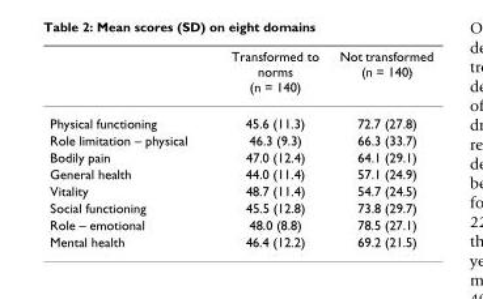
<table><thead><tr><td></td><td>Transformed to norms (n = 140)</td><td>Not transformed (n = 140)</td></tr></thead><tbody><tr><td>Physical functioning</td><td>45.6 (11.3)</td><td>72.7 (27.8)</td></tr><tr><td>Role limitation – physical</td><td>46.3 (9.3)</td><td>66.3 (33.7)</td></tr><tr><td>Bodily pain</td><td>47.0 (12.4)</td><td>64.1 (29.1)</td></tr><tr><td>General health</td><td>44.0 (11.4)</td><td>57.1 (24.9)</td></tr><tr><td>Vitality</td><td>48.7 (11.4)</td><td>54.7 (24.5)</td></tr><tr><td>Social functioning</td><td>45.5 (12.8)</td><td>73.8 (29.7)</td></tr><tr><td>Role – emotional</td><td>48.0 (8.8)</td><td>78.5 (27.1)</td></tr><tr><td>Mental health</td><td>46.4 (12.2)</td><td>69.2 (21.5)</td></tr></tbody></table>